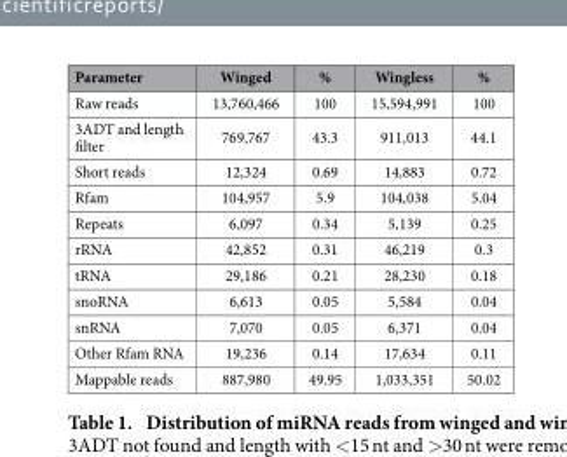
<table><thead><tr><td>Parameter</td><td>Winged</td><td>%</td><td>Wingless</td><td>%</td></tr></thead><tbody><tr><td>Raw reads</td><td>13,760,466</td><td>100</td><td>15,594,991</td><td>100</td></tr><tr><td>3ADT and length filter</td><td>769,767</td><td>43.3</td><td>911,013</td><td>44.1</td></tr><tr><td>Short reads</td><td>12,324</td><td>0.69</td><td>14,883</td><td>0.72</td></tr><tr><td>Rfam</td><td>104,957</td><td>5.9</td><td>104,038</td><td>5.04</td></tr><tr><td>Repeats</td><td>6,097</td><td>0.34</td><td>5,139</td><td>0.25</td></tr><tr><td>rRNA</td><td>42,852</td><td>0.31</td><td>46,219</td><td>0.3</td></tr><tr><td>tRNA</td><td>29,186</td><td>0.21</td><td>28,230</td><td>0.18</td></tr><tr><td>snoRNA</td><td>6,613</td><td>0.05</td><td>5,584</td><td>0.04</td></tr><tr><td>snRNA</td><td>7,070</td><td>0.05</td><td>6,371</td><td>0.04</td></tr><tr><td>Other Rfam RNA</td><td>19,236</td><td>0.14</td><td>17,634</td><td>0.11</td></tr><tr><td>Mappable reads</td><td>887,980</td><td>49.95</td><td>1,033,351</td><td>50.02</td></tr></tbody></table>